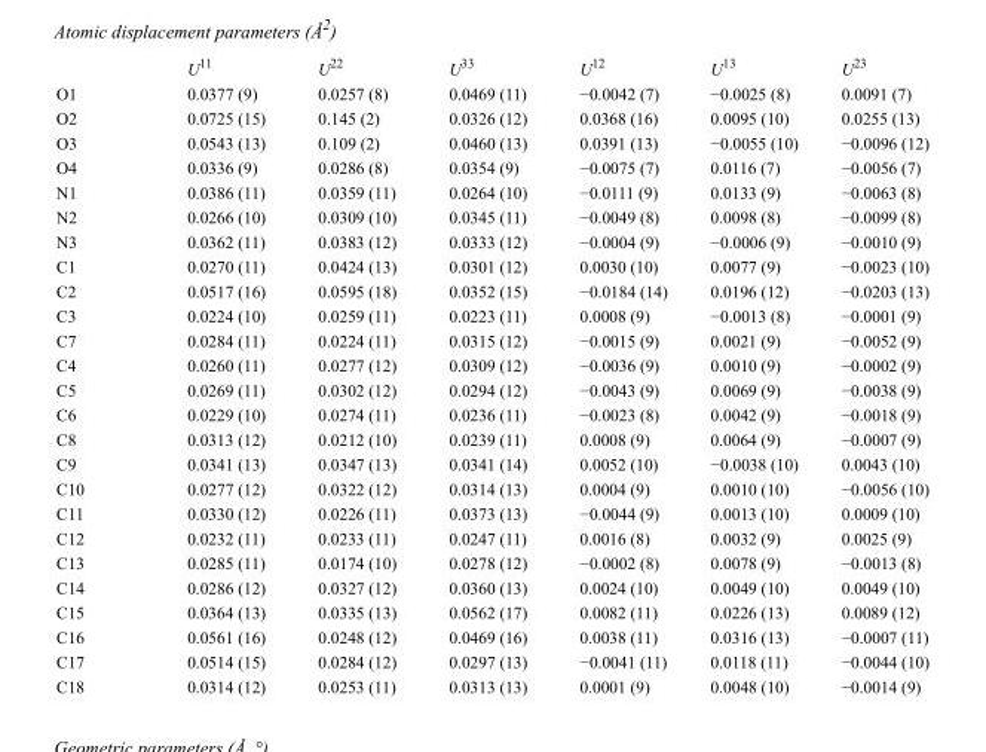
<table><thead><tr><td></td><td>U<sup>11</sup></td><td>U<sup>22</sup></td><td>U<sup>33</sup></td><td>U<sup>12</sup></td><td>U<sup>13</sup></td><td>U<sup>23</sup></td></tr></thead><tbody><tr><td>O1</td><td>0.0377 (9)</td><td>0.0257 (8)</td><td>0.0469 (11)</td><td>−0.0042 (7)</td><td>−0.0025 (8)</td><td>0.0091 (7)</td></tr><tr><td>O2</td><td>0.0725 (15)</td><td>0.145 (2)</td><td>0.0326 (12)</td><td>0.0368 (16)</td><td>0.0095 (10)</td><td>0.0255 (13)</td></tr><tr><td>O3</td><td>0.0543 (13)</td><td>0.109 (2)</td><td>0.0460 (13)</td><td>0.0391 (13)</td><td>−0.0055 (10)</td><td>−0.0096 (12)</td></tr><tr><td>O4</td><td>0.0336 (9)</td><td>0.0286 (8)</td><td>0.0354 (9)</td><td>−0.0075 (7)</td><td>0.0116 (7)</td><td>−0.0056 (7)</td></tr><tr><td>N1</td><td>0.0386 (11)</td><td>0.0359 (11)</td><td>0.0264 (10)</td><td>−0.0111 (9)</td><td>0.0133 (9)</td><td>−0.0063 (8)</td></tr><tr><td>N2</td><td>0.0266 (10)</td><td>0.0309 (10)</td><td>0.0345 (11)</td><td>−0.0049 (8)</td><td>0.0098 (8)</td><td>−0.0099 (8)</td></tr><tr><td>N3</td><td>0.0362 (11)</td><td>0.0383 (12)</td><td>0.0333 (12)</td><td>−0.0004 (9)</td><td>−0.0006 (9)</td><td>−0.0010 (9)</td></tr><tr><td>C1</td><td>0.0270 (11)</td><td>0.0424 (13)</td><td>0.0301 (12)</td><td>0.0030 (10)</td><td>0.0077 (9)</td><td>−0.0023 (10)</td></tr><tr><td>C2</td><td>0.0517 (16)</td><td>0.0595 (18)</td><td>0.0352 (15)</td><td>−0.0184 (14)</td><td>0.0196 (12)</td><td>−0.0203 (13)</td></tr><tr><td>C3</td><td>0.0224 (10)</td><td>0.0259 (11)</td><td>0.0223 (11)</td><td>0.0008 (9)</td><td>−0.0013 (8)</td><td>−0.0001 (9)</td></tr><tr><td>C7</td><td>0.0284 (11)</td><td>0.0224 (11)</td><td>0.0315 (12)</td><td>−0.0015 (9)</td><td>0.0021 (9)</td><td>−0.0052 (9)</td></tr><tr><td>C4</td><td>0.0260 (11)</td><td>0.0277 (12)</td><td>0.0309 (12)</td><td>−0.0036 (9)</td><td>0.0010 (9)</td><td>−0.0002 (9)</td></tr><tr><td>C5</td><td>0.0269 (11)</td><td>0.0302 (12)</td><td>0.0294 (12)</td><td>−0.0043 (9)</td><td>0.0069 (9)</td><td>−0.0038 (9)</td></tr><tr><td>C6</td><td>0.0229 (10)</td><td>0.0274 (11)</td><td>0.0236 (11)</td><td>−0.0023 (8)</td><td>0.0042 (9)</td><td>−0.0018 (9)</td></tr><tr><td>C8</td><td>0.0313 (12)</td><td>0.0212 (10)</td><td>0.0239 (11)</td><td>0.0008 (9)</td><td>0.0064 (9)</td><td>−0.0007 (9)</td></tr><tr><td>C9</td><td>0.0341 (13)</td><td>0.0347 (13)</td><td>0.0341 (14)</td><td>0.0052 (10)</td><td>−0.0038 (10)</td><td>0.0043 (10)</td></tr><tr><td>C10</td><td>0.0277 (12)</td><td>0.0322 (12)</td><td>0.0314 (13)</td><td>0.0004 (9)</td><td>0.0010 (10)</td><td>−0.0056 (10)</td></tr><tr><td>C11</td><td>0.0330 (12)</td><td>0.0226 (11)</td><td>0.0373 (13)</td><td>−0.0044 (9)</td><td>0.0013 (10)</td><td>0.0009 (10)</td></tr><tr><td>C12</td><td>0.0232 (11)</td><td>0.0233 (11)</td><td>0.0247 (11)</td><td>0.0016 (8)</td><td>0.0032 (9)</td><td>0.0025 (9)</td></tr><tr><td>C13</td><td>0.0285 (11)</td><td>0.0174 (10)</td><td>0.0278 (12)</td><td>−0.0002 (8)</td><td>0.0078 (9)</td><td>−0.0013 (8)</td></tr><tr><td>C14</td><td>0.0286 (12)</td><td>0.0327 (12)</td><td>0.0360 (13)</td><td>0.0024 (10)</td><td>0.0049 (10)</td><td>0.0049 (10)</td></tr><tr><td>C15</td><td>0.0364 (13)</td><td>0.0335 (13)</td><td>0.0562 (17)</td><td>0.0082 (11)</td><td>0.0226 (13)</td><td>0.0089 (12)</td></tr><tr><td>C16</td><td>0.0561 (16)</td><td>0.0248 (12)</td><td>0.0469 (16)</td><td>0.0038 (11)</td><td>0.0316 (13)</td><td>−0.0007 (11)</td></tr><tr><td>C17</td><td>0.0514 (15)</td><td>0.0284 (12)</td><td>0.0297 (13)</td><td>−0.0041 (11)</td><td>0.0118 (11)</td><td>−0.0044 (10)</td></tr><tr><td>C18</td><td>0.0314 (12)</td><td>0.0253 (11)</td><td>0.0313 (13)</td><td>0.0001 (9)</td><td>0.0048 (10)</td><td>−0.0014 (9)</td></tr></tbody></table>